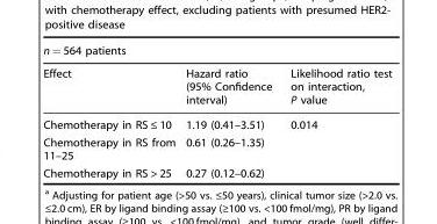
<table><thead><tr><td colspan="3">n = 564 patients</td></tr><tr><td>Effect</td><td>Hazard ratio (95% Confidence interval)</td><td>Likelihood ratio test on interaction, P value</td></tr></thead><tbody><tr><td>Chemotherapy in RS ≤ 10</td><td>1.19 (0.41–3.51)</td><td rowspan="3">0.014</td></tr><tr><td>Chemotherapy in RS from 11–25</td><td>0.61 (0.26–1.35)</td></tr><tr><td>Chemotherapy in RS &gt; 25</td><td>0.27 (0.12–0.62)</td></tr></tbody></table>